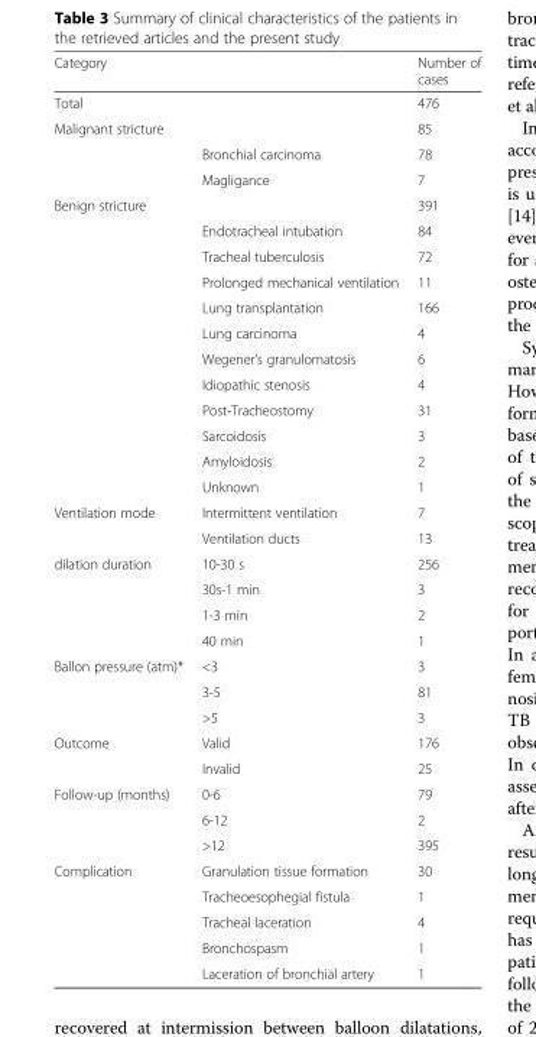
<table><thead><tr><td>Category</td><td></td><td>Number of cases</td></tr></thead><tbody><tr><td>Total</td><td></td><td>476</td></tr><tr><td rowspan="3">Malignant stricture</td><td></td><td>85</td></tr><tr><td>Bronchial carcinoma</td><td>78</td></tr><tr><td>Magligance</td><td>7</td></tr><tr><td rowspan="12">Benign stricture</td><td></td><td>391</td></tr><tr><td>Endotracheal intubation</td><td>84</td></tr><tr><td>Tracheal tuberculosis</td><td>72</td></tr><tr><td>Prolonged mechanical ventilation</td><td>11</td></tr><tr><td>Lung transplantation</td><td>166</td></tr><tr><td>Lung carcinoma</td><td>4</td></tr><tr><td>Wegener’s granulomatosis</td><td>6</td></tr><tr><td>Idiopathic stenosis</td><td>4</td></tr><tr><td>Post-Tracheostomy</td><td>31</td></tr><tr><td>Sarcoidosis</td><td>3</td></tr><tr><td>Amyloidosis</td><td>2</td></tr><tr><td>Unknown</td><td>1</td></tr><tr><td rowspan="2">Ventilation mode</td><td>Intermittent ventilation</td><td>7</td></tr><tr><td>Ventilation ducts</td><td>13</td></tr><tr><td rowspan="4">dilation duration</td><td>10-30 s</td><td>256</td></tr><tr><td>30s-1 min</td><td>3</td></tr><tr><td>1-3 min</td><td>2</td></tr><tr><td>40 min</td><td>1</td></tr><tr><td rowspan="3">Ballon pressure (atm)*</td><td>&lt;3</td><td>3</td></tr><tr><td>3-5</td><td>81</td></tr><tr><td>&gt;5</td><td>3</td></tr><tr><td rowspan="2">Outcome</td><td>Valid</td><td>176</td></tr><tr><td>Invalid</td><td>25</td></tr><tr><td rowspan="3">Follow-up (months)</td><td>0-6</td><td>79</td></tr><tr><td>6-12</td><td>2</td></tr><tr><td>&gt;12</td><td>395</td></tr><tr><td rowspan="5">Complication</td><td>Granulation tissue formation</td><td>30</td></tr><tr><td>Tracheoesophegial fistula</td><td>1</td></tr><tr><td>Tracheal laceration</td><td>4</td></tr><tr><td>Bronchospasm</td><td>1</td></tr><tr><td>Laceration of bronchial artery</td><td>1</td></tr></tbody></table>